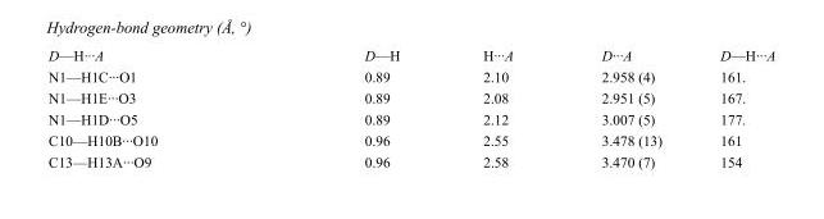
<table><tbody><tr><td>D—H···A</td><td>D—H</td><td>H···A</td><td>D···A</td><td>D—H···A</td></tr><tr><td>N1—H1C···O1</td><td>0.89</td><td>2.10</td><td>2.958 (4)</td><td>161.</td></tr><tr><td>N1—H1E···O3</td><td>0.89</td><td>2.08</td><td>2.951 (5)</td><td>167.</td></tr><tr><td>N1—H1D···O5</td><td>0.89</td><td>2.12</td><td>3.007 (5)</td><td>177.</td></tr><tr><td>C10—H10B···O10</td><td>0.96</td><td>2.55</td><td>3.478 (13)</td><td>161</td></tr><tr><td>C13—H13A···O9</td><td>0.96</td><td>2.58</td><td>3.470 (7)</td><td>154</td></tr></tbody></table>